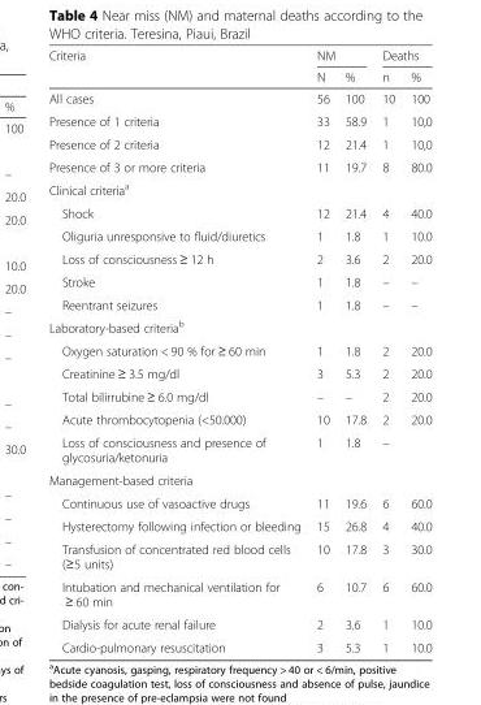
<table><thead><tr><td rowspan="2">Criteria</td><td colspan="2">NM</td><td colspan="2">Deaths</td></tr><tr><td>N</td><td>%</td><td>n</td><td>%</td></tr></thead><tbody><tr><td>All cases</td><td>56</td><td>100</td><td>10</td><td>100</td></tr><tr><td>Presence of 1 criteria</td><td>33</td><td>58.9</td><td>1</td><td>10,0</td></tr><tr><td>Presence of 2 criteria</td><td>12</td><td>21.4</td><td>1</td><td>10,0</td></tr><tr><td>Presence of 3 or more criteria</td><td>11</td><td>19.7</td><td>8</td><td>80.0</td></tr><tr><td colspan="5">Clinical criteria<sup>a</sup></td></tr><tr><td>Shock</td><td>12</td><td>21.4</td><td>4</td><td>40.0</td></tr><tr><td>Oliguria unresponsive to fluid/diuretics</td><td>1</td><td>1.8</td><td>1</td><td>10.0</td></tr><tr><td>Loss of consciousness ≥ 12 h</td><td>2</td><td>3.6</td><td>2</td><td>20.0</td></tr><tr><td>Stroke</td><td>1</td><td>1.8</td><td>–</td><td>–</td></tr><tr><td>Reentrant seizures</td><td>1</td><td>1.8</td><td>–</td><td>–</td></tr><tr><td colspan="5">Laboratory-based criteria<sup>b</sup></td></tr><tr><td>Oxygen saturation &lt; 90 % for ≥ 60 min</td><td>1</td><td>1.8</td><td>2</td><td>20.0</td></tr><tr><td>Creatinine ≥ 3.5 mg/dl</td><td>3</td><td>5.3</td><td>2</td><td>20.0</td></tr><tr><td>Total bilirrubine ≥ 6.0 mg/dl</td><td>–</td><td>–</td><td>2</td><td>20.0</td></tr><tr><td>Acute thrombocytopenia (&lt;50.000)</td><td>10</td><td>17.8</td><td>2</td><td>20.0</td></tr><tr><td>Loss of consciousness and presence of glycosuria/ketonuria</td><td>1</td><td>1.8</td><td>–</td><td></td></tr><tr><td colspan="5">Management-based criteria</td></tr><tr><td>Continuous use of vasoactive drugs</td><td>11</td><td>19.6</td><td>6</td><td>60.0</td></tr><tr><td>Hysterectomy following infection or bleeding</td><td>15</td><td>26.8</td><td>4</td><td>40.0</td></tr><tr><td>Transfusion of concentrated red blood cells (≥5 units)</td><td>10</td><td>17.8</td><td>3</td><td>30.0</td></tr><tr><td>Intubation and mechanical ventilation for ≥ 60 min</td><td>6</td><td>10.7</td><td>6</td><td>60.0</td></tr><tr><td>Dialysis for acute renal failure</td><td>2</td><td>3.6</td><td>1</td><td>10.0</td></tr><tr><td>Cardio-pulmonary resuscitation</td><td>3</td><td>5.3</td><td>1</td><td>10.0</td></tr></tbody></table>